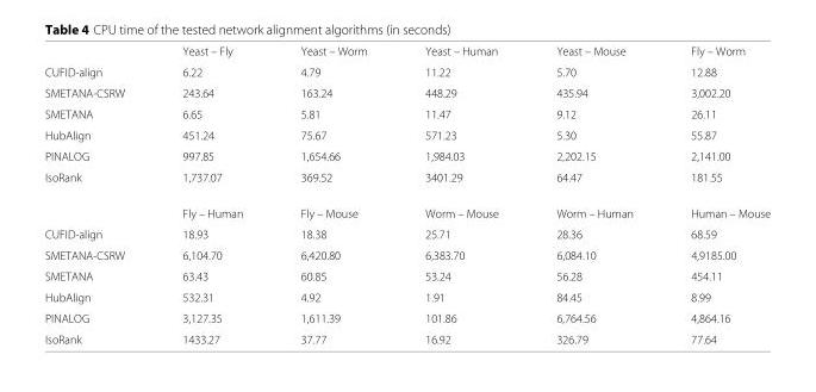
<table><thead><tr><td></td><td>Yeast – Fly</td><td>Yeast – Worm</td><td>Yeast – Human</td><td>Yeast – Mouse</td><td>Fly – Worm</td></tr></thead><tbody><tr><td>CUFID-align</td><td>6.22</td><td>4.79</td><td>11.22</td><td>5.70</td><td>12.88</td></tr><tr><td>SMETANA-CSRW</td><td>243.64</td><td>163.24</td><td>448.29</td><td>435.94</td><td>3,002.20</td></tr><tr><td>SMETANA</td><td>6.65</td><td>5.81</td><td>11.47</td><td>9.12</td><td>26.11</td></tr><tr><td>HubAlign</td><td>451.24</td><td>75.67</td><td>571.23</td><td>5.30</td><td>55.87</td></tr><tr><td>PINALOG</td><td>997.85</td><td>1,654.66</td><td>1,984.03</td><td>2,202.15</td><td>2,141.00</td></tr><tr><td rowspan="2">IsoRank</td><td>1,737.07</td><td>369.52</td><td>3401.29</td><td>64.47</td><td>181.55</td></tr><tr><td>Fly – Human</td><td>Fly – Mouse</td><td>Worm – Mouse</td><td>Worm – Human</td><td>Human – Mouse</td></tr><tr><td>CUFID-align</td><td>18.93</td><td>18.38</td><td>25.71</td><td>28.36</td><td>68.59</td></tr><tr><td>SMETANA-CSRW</td><td>6,104.70</td><td>6,420.80</td><td>6,383.70</td><td>6,084.10</td><td>4,9185.00</td></tr><tr><td>SMETANA</td><td>63.43</td><td>60.85</td><td>53.24</td><td>56.28</td><td>454.11</td></tr><tr><td>HubAlign</td><td>532.31</td><td>4.92</td><td>1.91</td><td>84.45</td><td>8.99</td></tr><tr><td>PINALOG</td><td>3,127.35</td><td>1,611.39</td><td>101.86</td><td>6,764.56</td><td>4,864.16</td></tr><tr><td>IsoRank</td><td>1433.27</td><td>37.77</td><td>16.92</td><td>326.79</td><td>77.64</td></tr></tbody></table>